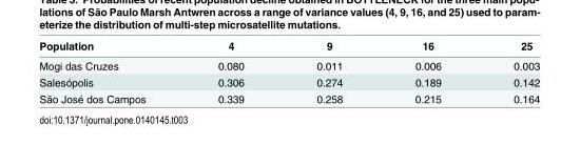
<table><thead><tr><td>Population</td><td>4</td><td>9</td><td>16</td><td>25</td></tr></thead><tbody><tr><td>Mogi das Cruzes</td><td>0.080</td><td>0.011</td><td>0.006</td><td>0.003</td></tr><tr><td>Salesópolis</td><td>0.306</td><td>0.274</td><td>0.189</td><td>0.142</td></tr><tr><td>São José dos Campos</td><td>0.339</td><td>0.258</td><td>0.215</td><td>0.164</td></tr></tbody></table>